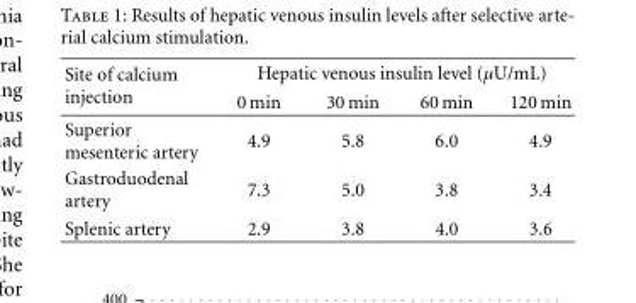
<table><thead><tr><td rowspan="2">Site of calcium injection</td><td colspan="4">Hepatic venous insulin level (μU/mL)</td></tr><tr><td>0 min</td><td>30 min</td><td>60 min</td><td>120 min</td></tr></thead><tbody><tr><td>Superior mesenteric artery</td><td>4.9</td><td>5.8</td><td>6.0</td><td>4.9</td></tr><tr><td>Gastroduodenal artery</td><td>7.3</td><td>5.0</td><td>3.8</td><td>3.4</td></tr><tr><td>Splenic artery</td><td>2.9</td><td>3.8</td><td>4.0</td><td>3.6</td></tr></tbody></table>